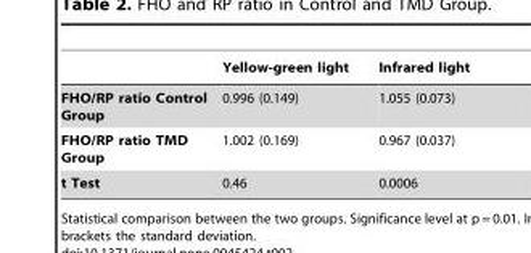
<table><thead><tr><td></td><td>Yellow-green light</td><td>Infrared light</td></tr></thead><tbody><tr><td>FHO/RP ratio Control Group</td><td>0.996 (0.149)</td><td>1.055 (0.073)</td></tr><tr><td>FHO/RP ratio TMD Group</td><td>1.002 (0.169)</td><td>0.967 (0.037)</td></tr><tr><td>t Test</td><td>0.46</td><td>0.0006</td></tr></tbody></table>